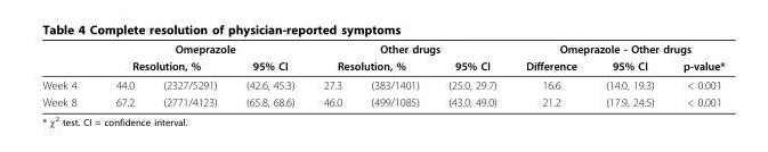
<table><thead><tr><td rowspan="3">Week 4</td><td colspan="3">Omeprazole</td><td colspan="3">Other drugs</td><td colspan="3">Omeprazole - Other drugs</td></tr><tr><td colspan="2">Resolution, %</td><td rowspan="2">95% CI (42.6, 45.3)</td><td colspan="2">Resolution, %</td><td rowspan="2">95% CI (25.0, 29.7)</td><td rowspan="2">Difference 16.6</td><td rowspan="2">95% CI (14.0, 19.3)</td><td rowspan="2">p-value* &lt; 0.001</td></tr><tr><td>44.0</td><td>(2327/5291)</td><td>27.3</td><td>(383/1401)</td></tr></thead><tbody><tr><td>Week 8</td><td>67.2</td><td>(2771/4123)</td><td>(65.8, 68.6)</td><td>46.0</td><td>(499/1085)</td><td>(43.0, 49.0)</td><td>21.2</td><td>(17.9, 24.5)</td><td>&lt; 0.001</td></tr></tbody></table>